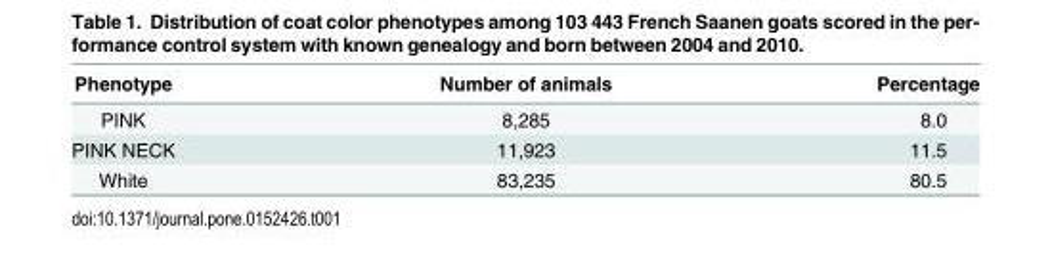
<table><thead><tr><td>Phenotype</td><td>Number of animals</td><td>Percentage</td></tr></thead><tbody><tr><td>PINK</td><td>8,285</td><td>8.0</td></tr><tr><td>PINK NECK</td><td>11,923</td><td>11.5</td></tr><tr><td>White</td><td>83,235</td><td>80.5</td></tr></tbody></table>